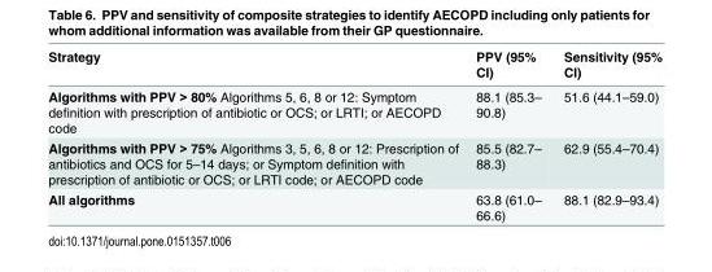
<table><thead><tr><td>Strategy</td><td>PPV (95% CI)</td><td>Sensitivity (95% CI)</td></tr></thead><tbody><tr><td>Algorithms with PPV &gt; 80% Algorithms 5, 6, 8 or 12: Symptom definition with prescription of antibiotic or OCS; or LRTI; or AECOPD code</td><td>88.1 (85.3– 90.8)</td><td>51.6 (44.1–59.0)</td></tr><tr><td>Algorithms with PPV &gt; 75% Algorithms 3, 5, 6, 8 or 12: Prescription of antibiotics and OCS for 5–14 days; or Symptom definition with prescription of antibiotic or OCS; or LRTI code; or AECOPD code</td><td>85.5 (82.7– 88.3)</td><td>62.9 (55.4–70.4)</td></tr><tr><td>All algorithms</td><td>63.8 (61.0– 66.6)</td><td>88.1 (82.9–93.4)</td></tr></tbody></table>